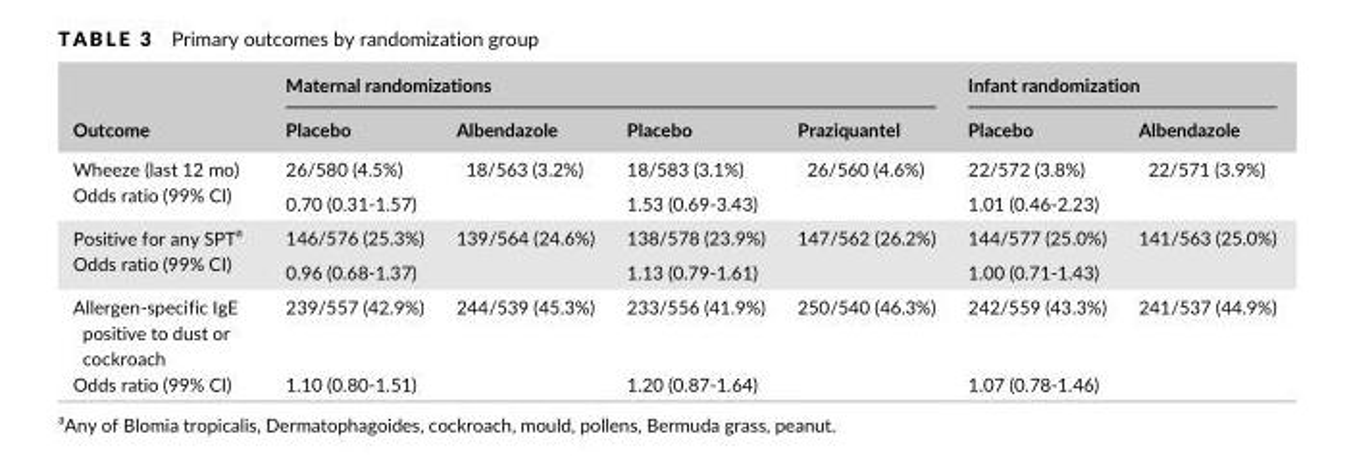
<table><thead><tr><td rowspan="2">Outcome</td><td colspan="4">Maternal randomizations</td><td colspan="2">Infant randomization</td></tr><tr><td>Placebo</td><td>Albendazole</td><td>Placebo</td><td>Praziquantel</td><td>Placebo</td><td>Albendazole</td></tr></thead><tbody><tr><td rowspan="2">Wheeze (last 12 mo) Odds ratio (99% CI)</td><td>26/580 (4.5%)</td><td>18/563 (3.2%)</td><td>18/583 (3.1%)</td><td>26/560 (4.6%)</td><td>22/572 (3.8%)</td><td>22/571 (3.9%)</td></tr><tr><td colspan="2">0.70 (0.31- 1.57)</td><td colspan="2">1.53 (0.69- 3.43)</td><td colspan="2">1.01 (0.46- 2.23)</td></tr><tr><td rowspan="2">Positive for any SPT<sup>a</sup> Odds ratio (99% CI)</td><td>146/576 (25.3%)</td><td>139/564 (24.6%)</td><td>138/578 (23.9%)</td><td>147/562 (26.2%)</td><td>144/577 (25.0%)</td><td>141/563 (25.0%)</td></tr><tr><td colspan="2">0.96 (0.68- 1.37)</td><td colspan="2">1.13 (0.79- 1.61)</td><td colspan="2">1.00 (0.71- 1.43)</td></tr><tr><td rowspan="2">Allergen- specific IgE positive to dust or cockroach Odds ratio (99% CI)</td><td>239/557 (42.9%)</td><td>244/539 (45.3%)</td><td>233/556 (41.9%)</td><td>250/540 (46.3%)</td><td>242/559 (43.3%)</td><td>241/537 (44.9%)</td></tr><tr><td colspan="2">1.10 (0.80- 1.51)</td><td colspan="2">1.20 (0.87- 1.64)</td><td colspan="2">1.07 (0.78- 1.46)</td></tr></tbody></table>